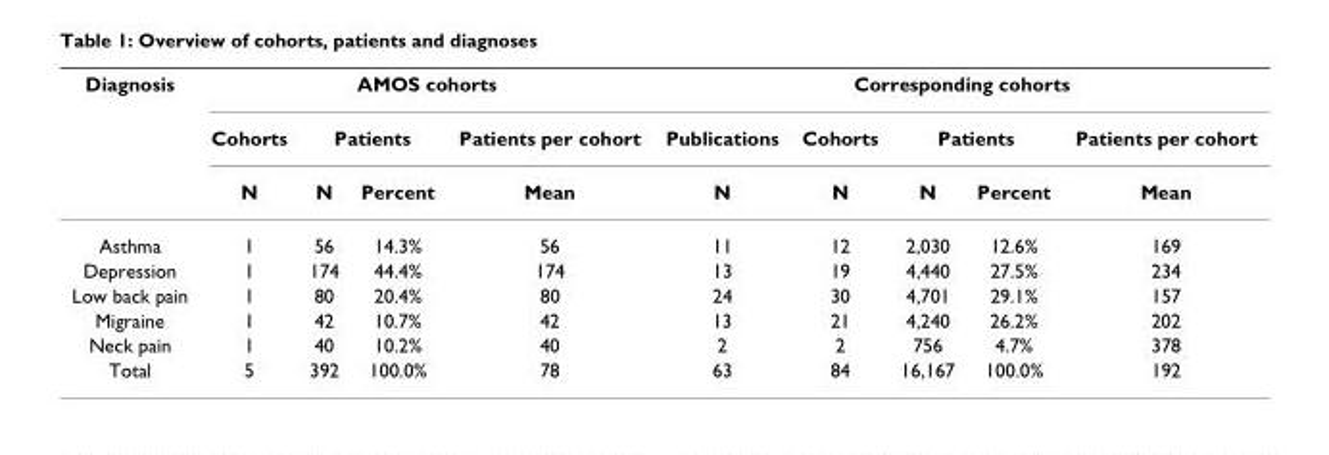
<table><thead><tr><td rowspan="3">Diagnosis</td><td colspan="4">AMOS cohorts</td><td colspan="5">Corresponding cohorts</td></tr><tr><td rowspan="2">Cohorts N</td><td colspan="2">Patients</td><td rowspan="2">Patients per cohort Mean</td><td rowspan="2">Publications N</td><td rowspan="2">Cohorts N</td><td colspan="2">Patients</td><td rowspan="2">Patients per cohort Mean</td></tr><tr><td>N</td><td>Percent</td><td>N</td><td>Percent</td></tr></thead><tbody><tr><td>Asthma</td><td>1</td><td>56</td><td>14.3%</td><td>56</td><td>11</td><td>12</td><td>2,030</td><td>12.6%</td><td>169</td></tr><tr><td>Depression</td><td>1</td><td>174</td><td>44.4%</td><td>174</td><td>13</td><td>19</td><td>4,440</td><td>27.5%</td><td>234</td></tr><tr><td>Low back pain</td><td>1</td><td>80</td><td>20.4%</td><td>80</td><td>24</td><td>30</td><td>4,701</td><td>29.1%</td><td>157</td></tr><tr><td>Migraine</td><td>1</td><td>42</td><td>10.7%</td><td>42</td><td>13</td><td>21</td><td>4,240</td><td>26.2%</td><td>202</td></tr><tr><td>Neck pain</td><td>1</td><td>40</td><td>10.2%</td><td>40</td><td>2</td><td>2</td><td>756</td><td>4.7%</td><td>378</td></tr><tr><td>Total</td><td>5</td><td>392</td><td>100.0%</td><td>78</td><td>63</td><td>84</td><td>16,167</td><td>100.0%</td><td>192</td></tr></tbody></table>